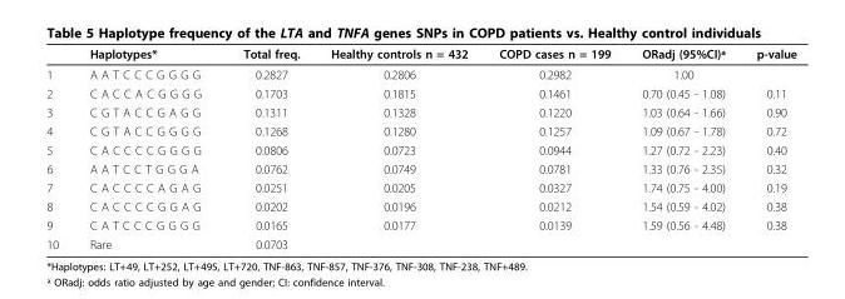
<table><thead><tr><td></td><td>Haplotypes*</td><td>Total freq.</td><td>Healthy controls n = 432</td><td>COPD cases n = 199</td><td>ORadj (95%CI)ª</td><td>p-value</td></tr></thead><tbody><tr><td>1</td><td>A A T C C C G G G G</td><td>0.2827</td><td>0.2806</td><td>0.2982</td><td>1.00</td><td></td></tr><tr><td>2</td><td>C A C C A C G G G G</td><td>0.1703</td><td>0.1815</td><td>0.1461</td><td>0.70 (0.45 - 1.08)</td><td>0.11</td></tr><tr><td>3</td><td>C G T A C C G A G G</td><td>0.1311</td><td>0.1328</td><td>0.1220</td><td>1.03 (0.64 - 1.66)</td><td>0.90</td></tr><tr><td>4</td><td>C G T A C C G G G G</td><td>0.1268</td><td>0.1280</td><td>0.1257</td><td>1.09 (0.67 - 1.78)</td><td>0.72</td></tr><tr><td>5</td><td>C A C C C C G G G G</td><td>0.0806</td><td>0.0723</td><td>0.0944</td><td>1.27 (0.72 - 2.23)</td><td>0.40</td></tr><tr><td>6</td><td>A A T C C T G G G A</td><td>0.0762</td><td>0.0749</td><td>0.0781</td><td>1.33 (0.76 - 2.35)</td><td>0.32</td></tr><tr><td>7</td><td>C A C C C C A G A G</td><td>0.0251</td><td>0.0205</td><td>0.0327</td><td>1.74 (0.75 - 4.00)</td><td>0.19</td></tr><tr><td>8</td><td>C A C C C C G G A G</td><td>0.0202</td><td>0.0196</td><td>0.0212</td><td>1.54 (0.59 - 4.02)</td><td>0.38</td></tr><tr><td>9</td><td>C A T C C C G G G G</td><td>0.0165</td><td>0.0177</td><td>0.0139</td><td>1.59 (0.56 - 4.48)</td><td>0.38</td></tr><tr><td>10</td><td>Rare</td><td>0.0703</td><td></td><td></td><td></td><td></td></tr></tbody></table>